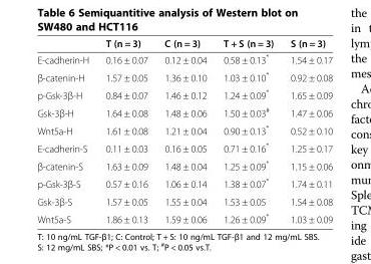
<table><thead><tr><td></td><td>T (n = 3)</td><td>C (n = 3)</td><td>T + S (n = 3)</td><td>S (n = 3)</td></tr></thead><tbody><tr><td>E-cadherin-H</td><td>0.16 ± 0.07</td><td>0.12 ± 0.04</td><td>0.58 ± 0.13*</td><td>1.54 ± 0.17</td></tr><tr><td>β-catenin-H</td><td>1.57 ± 0.05</td><td>1.36 ± 0.10</td><td>1.03 ± 0.10*</td><td>0.92 ± 0.08</td></tr><tr><td>p-Gsk-3β-H</td><td>0.84 ± 0.07</td><td>1.46 ± 0.12</td><td>1.24 ± 0.09*</td><td>1.65 ± 0.09</td></tr><tr><td>Gsk-3β-H</td><td>1.64 ± 0.08</td><td>1.48 ± 0.06</td><td>1.50 ± 0.03<sup>#</sup></td><td>1.47 ± 0.06</td></tr><tr><td>Wnt5a-H</td><td>1.61 ± 0.08</td><td>1.21 ± 0.04</td><td>0.90 ± 0.13*</td><td>0.52 ± 0.10</td></tr><tr><td>E-cadherin-S</td><td>0.11 ± 0.03</td><td>0.16 ± 0.05</td><td>0.71 ± 0.16*</td><td>1.25 ± 0.17</td></tr><tr><td>β-catenin-S</td><td>1.63 ± 0.09</td><td>1.48 ± 0.04</td><td>1.25 ± 0.09*</td><td>1.15 ± 0.06</td></tr><tr><td>p-Gsk-3β-S</td><td>0.57 ± 0.16</td><td>1.06 ± 0.14</td><td>1.38 ± 0.07*</td><td>1.74 ± 0.11</td></tr><tr><td>Gsk-3β-S</td><td>1.57 ± 0.05</td><td>1.55 ± 0.04</td><td>1.53 ± 0.05</td><td>1.54 ± 0.08</td></tr><tr><td>Wnt5a-S</td><td>1.86 ± 0.13</td><td>1.59 ± 0.06</td><td>1.26 ± 0.09*</td><td>1.03 ± 0.09</td></tr></tbody></table>